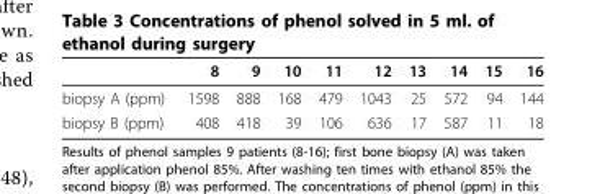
<table><thead><tr><td></td><td>8</td><td>9</td><td>10</td><td>11</td><td>12</td><td>13</td><td>14</td><td>15</td><td>16</td></tr></thead><tbody><tr><td>biopsy A (ppm)</td><td>1598</td><td>888</td><td>168</td><td>479</td><td>1043</td><td>25</td><td>572</td><td>94</td><td>144</td></tr><tr><td>biopsy B (ppm)</td><td>408</td><td>418</td><td>39</td><td>106</td><td>636</td><td>17</td><td>587</td><td>11</td><td>18</td></tr></tbody></table>